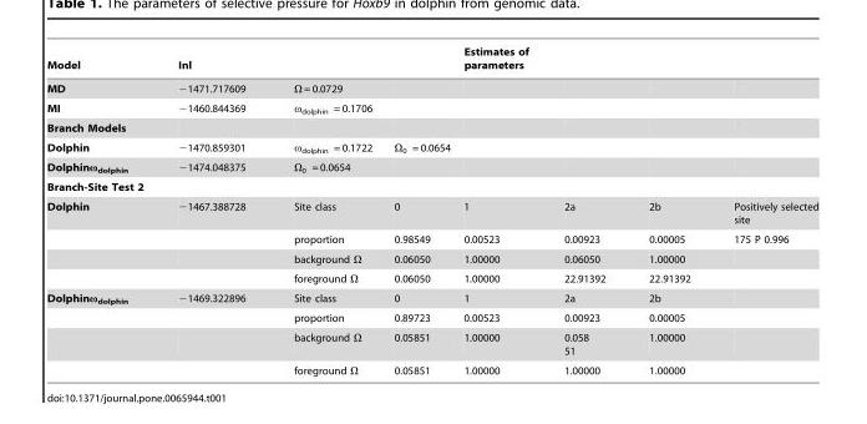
<table><thead><tr><td>Model</td><td>Inl</td><td></td><td></td><td>Estimates of parameters</td><td></td><td></td><td></td></tr></thead><tbody><tr><td>MD</td><td>−1471.717609</td><td>Ω = 0.0729</td><td></td><td></td><td></td><td></td><td></td></tr><tr><td>MI</td><td>−1460.844369</td><td>ω<sub>dolphin</sub> = 0.1706</td><td></td><td></td><td></td><td></td><td></td></tr><tr><td colspan="8">Branch Models</td></tr><tr><td>Dolphin</td><td>−1470.859301</td><td>ω<sub>dolphin</sub> = 0.1722</td><td>Ω<sub>0</sub> = 0.0654</td><td></td><td></td><td></td><td></td></tr><tr><td>Dolphinω<sub>dolphin</sub></td><td>−1474.048375</td><td>Ω<sub>0</sub> = 0.0654</td><td></td><td></td><td></td><td></td><td></td></tr><tr><td colspan="8">Branch-Site Test 2</td></tr><tr><td rowspan="4">Dolphin</td><td>−1467.388728</td><td>Site class</td><td>0</td><td>1</td><td>2a</td><td>2b</td><td>Positively selected site</td></tr><tr><td></td><td>proportion</td><td>0.98549</td><td>0.00523</td><td>0.00923</td><td>0.00005</td><td>175 P 0.996</td></tr><tr><td></td><td>background Ω</td><td>0.06050</td><td>1.00000</td><td>0.06050</td><td>1.00000</td><td></td></tr><tr><td></td><td>foreground Ω</td><td>0.06050</td><td>1.00000</td><td>22.91392</td><td>22.91392</td><td></td></tr><tr><td rowspan="4">Dolphinω<sub>dolphin</sub></td><td>−1469.322896</td><td>Site class</td><td>0</td><td>1</td><td>2a</td><td>2b</td><td></td></tr><tr><td></td><td>proportion</td><td>0.89723</td><td>0.00523</td><td>0.00923</td><td>0.00005</td><td></td></tr><tr><td></td><td>background Ω</td><td>0.05851</td><td>1.00000</td><td>0.058 51</td><td>1.00000</td><td></td></tr><tr><td></td><td>foreground Ω</td><td>0.05851</td><td>1.00000</td><td>1.00000</td><td>1.00000</td><td></td></tr></tbody></table>